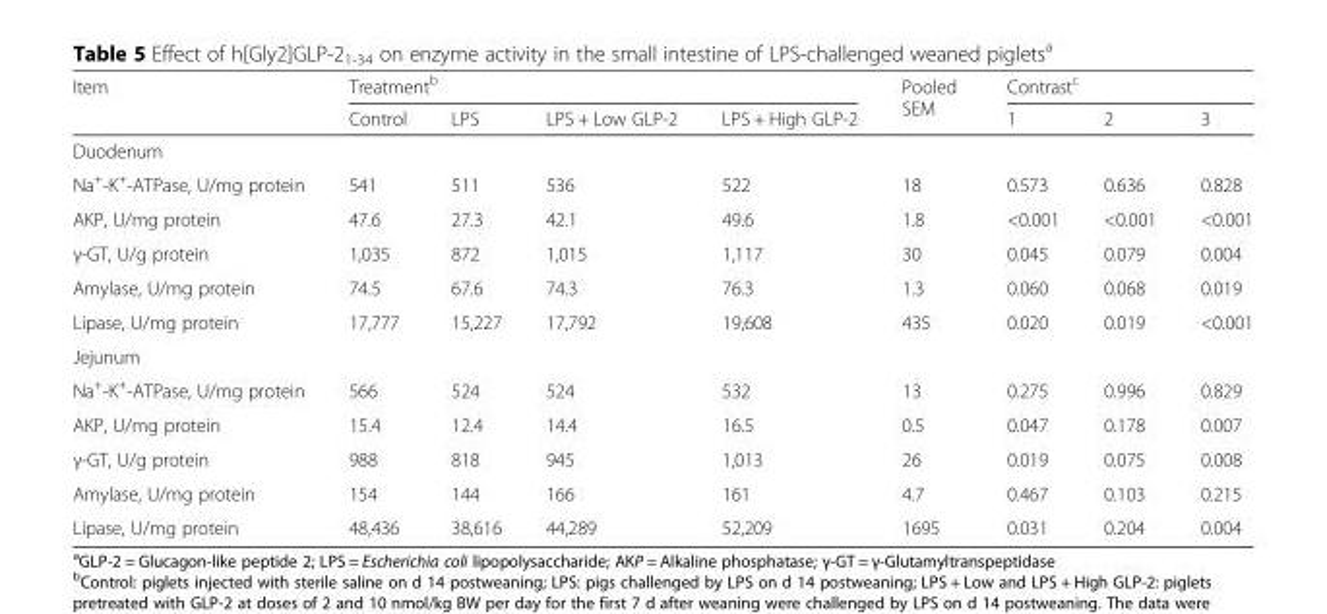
<table><thead><tr><td rowspan="2">Item</td><td colspan="4">Treatment<sup>b</sup></td><td rowspan="2">Pooled SEM</td><td colspan="3">Contrast<sup>c</sup></td></tr><tr><td>Control</td><td>LPS</td><td>LPS + Low GLP-2</td><td>LPS + High GLP-2</td><td>1</td><td>2</td><td>3</td></tr></thead><tbody><tr><td colspan="9">Duodenum</td></tr><tr><td>Na<sup>+</sup>-K<sup>+</sup>-ATPase, U/mg protein</td><td>541</td><td>511</td><td>536</td><td>522</td><td>18</td><td>0.573</td><td>0.636</td><td>0.828</td></tr><tr><td>AKP, U/mg protein</td><td>47.6</td><td>27.3</td><td>42.1</td><td>49.6</td><td>1.8</td><td>&lt;0.001</td><td>&lt;0.001</td><td>&lt;0.001</td></tr><tr><td>γ-GT, U/g protein</td><td>1,035</td><td>872</td><td>1,015</td><td>1,117</td><td>30</td><td>0.045</td><td>0.079</td><td>0.004</td></tr><tr><td>Amylase, U/mg protein</td><td>74.5</td><td>67.6</td><td>74.3</td><td>76.3</td><td>1.3</td><td>0.060</td><td>0.068</td><td>0.019</td></tr><tr><td>Lipase, U/mg protein</td><td>17,777</td><td>15,227</td><td>17,792</td><td>19,608</td><td>435</td><td>0.020</td><td>0.019</td><td>&lt;0.001</td></tr><tr><td colspan="9">Jejunum</td></tr><tr><td>Na<sup>+</sup>-K<sup>+</sup>-ATPase, U/mg protein</td><td>566</td><td>524</td><td>524</td><td>532</td><td>13</td><td>0.275</td><td>0.996</td><td>0.829</td></tr><tr><td>AKP, U/mg protein</td><td>15.4</td><td>12.4</td><td>14.4</td><td>16.5</td><td>0.5</td><td>0.047</td><td>0.178</td><td>0.007</td></tr><tr><td>γ-GT, U/g protein</td><td>988</td><td>818</td><td>945</td><td>1,013</td><td>26</td><td>0.019</td><td>0.075</td><td>0.008</td></tr><tr><td>Amylase, U/mg protein</td><td>154</td><td>144</td><td>166</td><td>161</td><td>4.7</td><td>0.467</td><td>0.103</td><td>0.215</td></tr><tr><td>Lipase, U/mg protein</td><td>48,436</td><td>38,616</td><td>44,289</td><td>52,209</td><td>1695</td><td>0.031</td><td>0.204</td><td>0.004</td></tr></tbody></table>